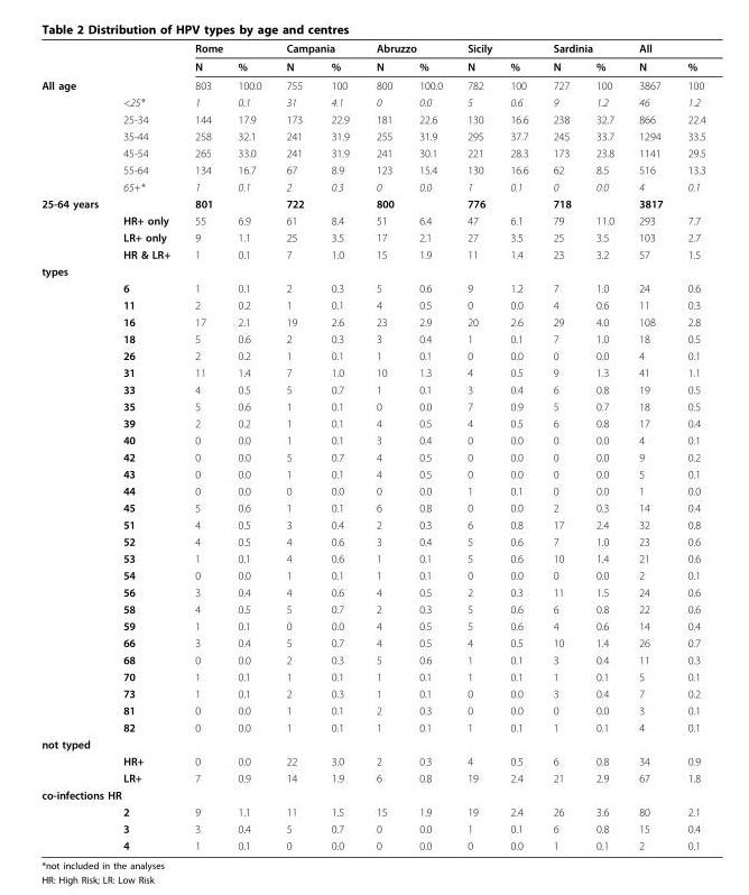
<table><thead><tr><td rowspan="2"></td><td rowspan="2"></td><td colspan="2">Rome</td><td colspan="2">Campania</td><td colspan="2">Abruzzo</td><td colspan="2">Sicily</td><td colspan="2">Sardinia</td><td colspan="2">All</td></tr><tr><td>N</td><td>%</td><td>N</td><td>%</td><td>N</td><td>%</td><td>N</td><td>%</td><td>N</td><td>%</td><td>N</td><td>%</td></tr></thead><tbody><tr><td rowspan="7">All age</td><td></td><td>803</td><td>100.0</td><td>755</td><td>100</td><td>800</td><td>100.0</td><td>782</td><td>100</td><td>727</td><td>100</td><td>3867</td><td>100</td></tr><tr><td>&lt;25*</td><td>1</td><td>0.1</td><td>31</td><td>4.1</td><td>0</td><td>0.0</td><td>5</td><td>0.6</td><td>9</td><td>1.2</td><td>46</td><td>1.2</td></tr><tr><td>25-34</td><td>144</td><td>17.9</td><td>173</td><td>22.9</td><td>181</td><td>22.6</td><td>130</td><td>16.6</td><td>238</td><td>32.7</td><td>866</td><td>22.4</td></tr><tr><td>35-44</td><td>258</td><td>32.1</td><td>241</td><td>31.9</td><td>255</td><td>31.9</td><td>295</td><td>37.7</td><td>245</td><td>33.7</td><td>1294</td><td>33.5</td></tr><tr><td>45-54</td><td>265</td><td>33.0</td><td>241</td><td>31.9</td><td>241</td><td>30.1</td><td>221</td><td>28.3</td><td>173</td><td>23.8</td><td>1141</td><td>29.5</td></tr><tr><td>55-64</td><td>134</td><td>16.7</td><td>67</td><td>8.9</td><td>123</td><td>15.4</td><td>130</td><td>16.6</td><td>62</td><td>8.5</td><td>516</td><td>13.3</td></tr><tr><td>65+*</td><td>1</td><td>0.1</td><td>2</td><td>0.3</td><td>0</td><td>0.0</td><td>1</td><td>0.1</td><td>0</td><td>0.0</td><td>4</td><td>0.1</td></tr><tr><td rowspan="4">25-64 years</td><td></td><td>801</td><td></td><td>722</td><td></td><td>800</td><td></td><td>776</td><td></td><td>718</td><td></td><td>3817</td><td></td></tr><tr><td>HR+ only</td><td>55</td><td>6.9</td><td>61</td><td>8.4</td><td>51</td><td>6.4</td><td>47</td><td>6.1</td><td>79</td><td>11.0</td><td>293</td><td>7.7</td></tr><tr><td>LR+ only</td><td>9</td><td>1.1</td><td>25</td><td>3.5</td><td>17</td><td>2.1</td><td>27</td><td>3.5</td><td>25</td><td>3.5</td><td>103</td><td>2.7</td></tr><tr><td>HR &amp; LR+</td><td>1</td><td>0.1</td><td>7</td><td>1.0</td><td>15</td><td>1.9</td><td>11</td><td>1.4</td><td>23</td><td>3.2</td><td>57</td><td>1.5</td></tr><tr><td colspan="14">types</td></tr><tr><td></td><td>6</td><td>1</td><td>0.1</td><td>2</td><td>0.3</td><td>5</td><td>0.6</td><td>9</td><td>1.2</td><td>7</td><td>1.0</td><td>24</td><td>0.6</td></tr><tr><td></td><td>11</td><td>2</td><td>0.2</td><td>1</td><td>0.1</td><td>4</td><td>0.5</td><td>0</td><td>0.0</td><td>4</td><td>0.6</td><td>11</td><td>0.3</td></tr><tr><td></td><td>16</td><td>17</td><td>2.1</td><td>19</td><td>2.6</td><td>23</td><td>2.9</td><td>20</td><td>2.6</td><td>29</td><td>4.0</td><td>108</td><td>2.8</td></tr><tr><td></td><td>18</td><td>5</td><td>0.6</td><td>2</td><td>0.3</td><td>3</td><td>0.4</td><td>1</td><td>0.1</td><td>7</td><td>1.0</td><td>18</td><td>0.5</td></tr><tr><td></td><td>26</td><td>2</td><td>0.2</td><td>1</td><td>0.1</td><td>1</td><td>0.1</td><td>0</td><td>0.0</td><td>0</td><td>0.0</td><td>4</td><td>0.1</td></tr><tr><td></td><td>31</td><td>11</td><td>1.4</td><td>7</td><td>1.0</td><td>10</td><td>1.3</td><td>4</td><td>0.5</td><td>9</td><td>1.3</td><td>41</td><td>1.1</td></tr><tr><td></td><td>33</td><td>4</td><td>0.5</td><td>5</td><td>0.7</td><td>1</td><td>0.1</td><td>3</td><td>0.4</td><td>6</td><td>0.8</td><td>19</td><td>0.5</td></tr><tr><td></td><td>35</td><td>5</td><td>0.6</td><td>1</td><td>0.1</td><td>0</td><td>0.0</td><td>7</td><td>0.9</td><td>5</td><td>0.7</td><td>18</td><td>0.5</td></tr><tr><td></td><td>39</td><td>2</td><td>0.2</td><td>1</td><td>0.1</td><td>4</td><td>0.5</td><td>4</td><td>0.5</td><td>6</td><td>0.8</td><td>17</td><td>0.4</td></tr><tr><td></td><td>40</td><td>0</td><td>0.0</td><td>1</td><td>0.1</td><td>3</td><td>0.4</td><td>0</td><td>0.0</td><td>0</td><td>0.0</td><td>4</td><td>0.1</td></tr><tr><td></td><td>42</td><td>0</td><td>0.0</td><td>5</td><td>0.7</td><td>4</td><td>0.5</td><td>0</td><td>0.0</td><td>0</td><td>0.0</td><td>9</td><td>0.2</td></tr><tr><td></td><td>43</td><td>0</td><td>0.0</td><td>1</td><td>0.1</td><td>4</td><td>0.5</td><td>0</td><td>0.0</td><td>0</td><td>0.0</td><td>5</td><td>0.1</td></tr><tr><td></td><td>44</td><td>0</td><td>0.0</td><td>0</td><td>0.0</td><td>0</td><td>0.0</td><td>1</td><td>0.1</td><td>0</td><td>0.0</td><td>1</td><td>0.0</td></tr><tr><td></td><td>45</td><td>5</td><td>0.6</td><td>1</td><td>0.1</td><td>6</td><td>0.8</td><td>0</td><td>0.0</td><td>2</td><td>0.3</td><td>14</td><td>0.4</td></tr><tr><td></td><td>51</td><td>4</td><td>0.5</td><td>3</td><td>0.4</td><td>2</td><td>0.3</td><td>6</td><td>0.8</td><td>17</td><td>2.4</td><td>32</td><td>0.8</td></tr><tr><td></td><td>52</td><td>4</td><td>0.5</td><td>4</td><td>0.6</td><td>3</td><td>0.4</td><td>5</td><td>0.6</td><td>7</td><td>1.0</td><td>23</td><td>0.6</td></tr><tr><td></td><td>53</td><td>1</td><td>0.1</td><td>4</td><td>0.6</td><td>1</td><td>0.1</td><td>5</td><td>0.6</td><td>10</td><td>1.4</td><td>21</td><td>0.6</td></tr><tr><td></td><td>54</td><td>0</td><td>0.0</td><td>1</td><td>0.1</td><td>1</td><td>0.1</td><td>0</td><td>0.0</td><td>0</td><td>0.0</td><td>2</td><td>0.1</td></tr><tr><td></td><td>56</td><td>3</td><td>0.4</td><td>4</td><td>0.6</td><td>4</td><td>0.5</td><td>2</td><td>0.3</td><td>11</td><td>1.5</td><td>24</td><td>0.6</td></tr><tr><td></td><td>58</td><td>4</td><td>0.5</td><td>5</td><td>0.7</td><td>2</td><td>0.3</td><td>5</td><td>0.6</td><td>6</td><td>0.8</td><td>22</td><td>0.6</td></tr><tr><td></td><td>59</td><td>1</td><td>0.1</td><td>0</td><td>0.0</td><td>4</td><td>0.5</td><td>5</td><td>0.6</td><td>4</td><td>0.6</td><td>14</td><td>0.4</td></tr><tr><td></td><td>66</td><td>3</td><td>0.4</td><td>5</td><td>0.7</td><td>4</td><td>0.5</td><td>4</td><td>0.5</td><td>10</td><td>1.4</td><td>26</td><td>0.7</td></tr><tr><td></td><td>68</td><td>0</td><td>0.0</td><td>2</td><td>0.3</td><td>5</td><td>0.6</td><td>1</td><td>0.1</td><td>3</td><td>0.4</td><td>11</td><td>0.3</td></tr><tr><td></td><td>70</td><td>1</td><td>0.1</td><td>1</td><td>0.1</td><td>1</td><td>0.1</td><td>1</td><td>0.1</td><td>1</td><td>0.1</td><td>5</td><td>0.1</td></tr><tr><td></td><td>73</td><td>1</td><td>0.1</td><td>2</td><td>0.3</td><td>1</td><td>0.1</td><td>0</td><td>0.0</td><td>3</td><td>0.4</td><td>7</td><td>0.2</td></tr><tr><td></td><td>81</td><td>0</td><td>0.0</td><td>1</td><td>0.1</td><td>2</td><td>0.3</td><td>0</td><td>0.0</td><td>0</td><td>0.0</td><td>3</td><td>0.1</td></tr><tr><td></td><td>82</td><td>0</td><td>0.0</td><td>1</td><td>0.1</td><td>1</td><td>0.1</td><td>1</td><td>0.1</td><td>1</td><td>0.1</td><td>4</td><td>0.1</td></tr><tr><td colspan="14">not typed</td></tr><tr><td></td><td>HR+</td><td>0</td><td>0.0</td><td>22</td><td>3.0</td><td>2</td><td>0.3</td><td>4</td><td>0.5</td><td>6</td><td>0.8</td><td>34</td><td>0.9</td></tr><tr><td></td><td>LR+</td><td>7</td><td>0.9</td><td>14</td><td>1.9</td><td>6</td><td>0.8</td><td>19</td><td>2.4</td><td>21</td><td>2.9</td><td>67</td><td>1.8</td></tr><tr><td colspan="14">co-infections HR</td></tr><tr><td></td><td>2</td><td>9</td><td>1.1</td><td>11</td><td>1.5</td><td>15</td><td>1.9</td><td>19</td><td>2.4</td><td>26</td><td>3.6</td><td>80</td><td>2.1</td></tr><tr><td></td><td>3</td><td>3</td><td>0.4</td><td>5</td><td>0.7</td><td>0</td><td>0.0</td><td>1</td><td>0.1</td><td>6</td><td>0.8</td><td>15</td><td>0.4</td></tr><tr><td></td><td>4</td><td>1</td><td>0.1</td><td>0</td><td>0.0</td><td>0</td><td>0.0</td><td>0</td><td>0.0</td><td>1</td><td>0.1</td><td>2</td><td>0.1</td></tr></tbody></table>